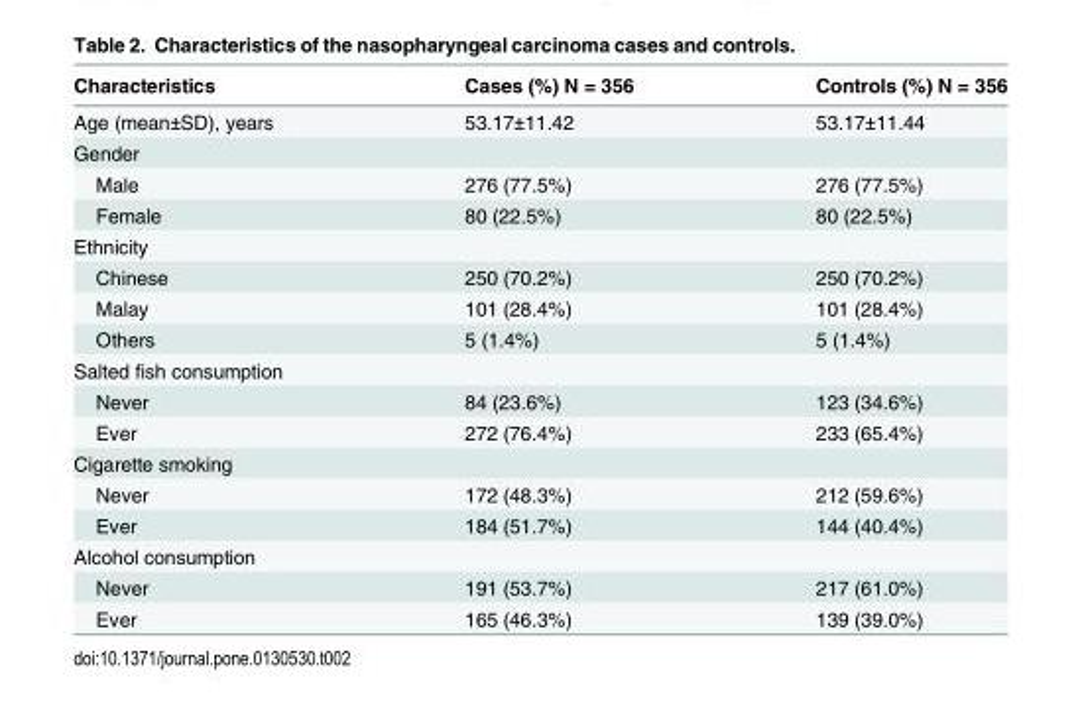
<table><thead><tr><td>Characteristics</td><td>Cases (%) N = 356</td><td>Controls (%) N = 356</td></tr></thead><tbody><tr><td>Age (mean±SD), years</td><td>53.17±11.42</td><td>53.17±11.44</td></tr><tr><td colspan="3">Gender</td></tr><tr><td>Male</td><td>276 (77.5%)</td><td>276 (77.5%)</td></tr><tr><td>Female</td><td>80 (22.5%)</td><td>80 (22.5%)</td></tr><tr><td colspan="3">Ethnicity</td></tr><tr><td>Chinese</td><td>250 (70.2%)</td><td>250 (70.2%)</td></tr><tr><td>Malay</td><td>101 (28.4%)</td><td>101 (28.4%)</td></tr><tr><td>Others</td><td>5 (1.4%)</td><td>5 (1.4%)</td></tr><tr><td colspan="3">Salted fish consumption</td></tr><tr><td>Never</td><td>84 (23.6%)</td><td>123 (34.6%)</td></tr><tr><td>Ever</td><td>272 (76.4%)</td><td>233 (65.4%)</td></tr><tr><td colspan="3">Cigarette smoking</td></tr><tr><td>Never</td><td>172 (48.3%)</td><td>212 (59.6%)</td></tr><tr><td>Ever</td><td>184 (51.7%)</td><td>144 (40.4%)</td></tr><tr><td colspan="3">Alcohol consumption</td></tr><tr><td>Never</td><td>191 (53.7%)</td><td>217 (61.0%)</td></tr><tr><td>Ever</td><td>165 (46.3%)</td><td>139 (39.0%)</td></tr></tbody></table>